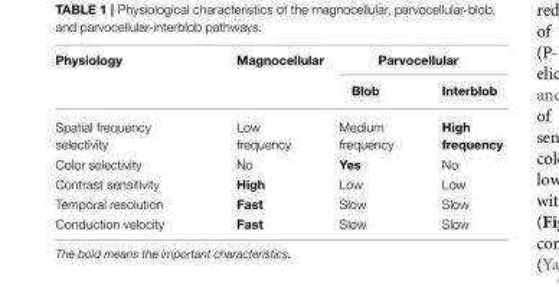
<table><thead><tr><td rowspan="2">Physiology</td><td rowspan="2">Magnocellular</td><td colspan="2">Parvocellular</td></tr><tr><td>Blob</td><td>Interblob</td></tr></thead><tbody><tr><td>Spatial frequency selectivity</td><td>Low frequency</td><td>Medium frequency</td><td>High frequency</td></tr><tr><td>Color selectivity</td><td>No</td><td>Yes</td><td>No</td></tr><tr><td>Contrast sensitivity</td><td>High</td><td>Low</td><td>Low</td></tr><tr><td>Temporal resolution</td><td>Fast</td><td>Slow</td><td>Slow</td></tr><tr><td>Conduction velocity</td><td>Fast</td><td>Slow</td><td>Slow</td></tr></tbody></table>